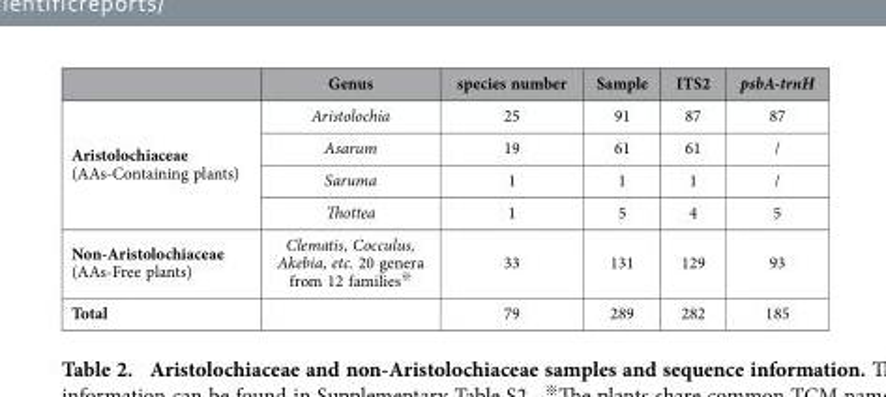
<table><thead><tr><td></td><td>Genus</td><td>species number</td><td>Sample</td><td>ITS2</td><td>psbA-trnH</td></tr></thead><tbody><tr><td rowspan="4">Aristolochiaceae (AAs-Containing plants)</td><td>Aristolochia</td><td>25</td><td>91</td><td>87</td><td>87</td></tr><tr><td>Asarum</td><td>19</td><td>61</td><td>61</td><td>/</td></tr><tr><td>Saruma</td><td>1</td><td>1</td><td>1</td><td>/</td></tr><tr><td>Thottea</td><td>1</td><td>5</td><td>4</td><td>5</td></tr><tr><td>Non-Aristolochiaceae (AAs-Free plants)</td><td>Clematis, Cocculus, Akebia, etc. 20 genera from 12 families※</td><td>33</td><td>131</td><td>129</td><td>93</td></tr><tr><td>Total</td><td></td><td>79</td><td>289</td><td>282</td><td>185</td></tr></tbody></table>